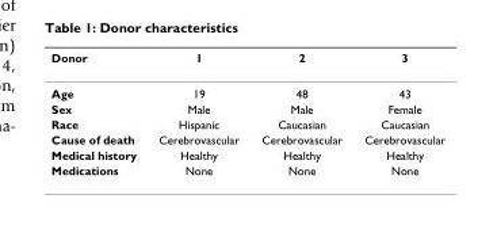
<table><thead><tr><td>Donor</td><td>1</td><td>2</td><td>3</td></tr></thead><tbody><tr><td>Age</td><td>19</td><td>48</td><td>43</td></tr><tr><td>Sex</td><td>Male</td><td>Male</td><td>Female</td></tr><tr><td>Race</td><td>Hispanic</td><td>Caucasian</td><td>Caucasian</td></tr><tr><td>Cause of death</td><td>Cerebrovascular</td><td>Cerebrovascular</td><td>Cerebrovascular</td></tr><tr><td>Medical history</td><td>Healthy</td><td>Healthy</td><td>Healthy</td></tr><tr><td>Medications</td><td>None</td><td>None</td><td>None</td></tr></tbody></table>